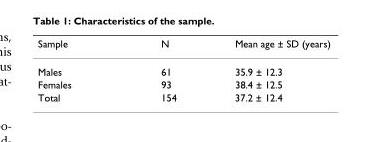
<table><thead><tr><td>Sample</td><td>N</td><td>Mean age ± SD (years)</td></tr></thead><tbody><tr><td>Males</td><td>61</td><td>35.9 ± 12.3</td></tr><tr><td>Females</td><td>93</td><td>38.4 ± 12.5</td></tr><tr><td>Total</td><td>154</td><td>37.2 ± 12.4</td></tr></tbody></table>